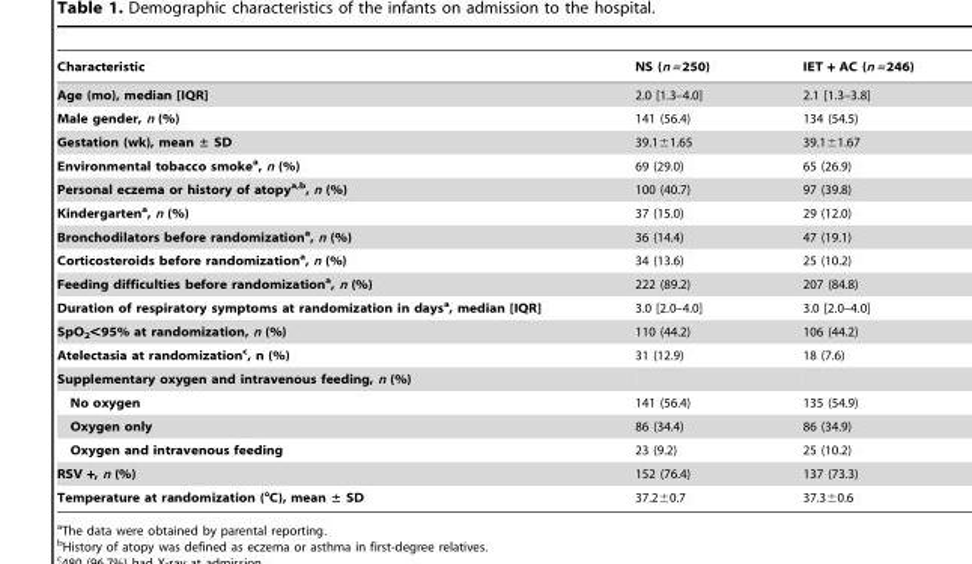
<table><thead><tr><td>Characteristic</td><td>NS (n = 250)</td><td>IET + AC (n = 246)</td></tr></thead><tbody><tr><td>Age (mo), median [IQR]</td><td>2.0 [1.3–4.0]</td><td>2.1 [1.3–3.8]</td></tr><tr><td>Male gender, n (%)</td><td>141 (56.4)</td><td>134 (54.5)</td></tr><tr><td>Gestation (wk), mean ± SD</td><td>39.1±1.65</td><td>39.1±1.67</td></tr><tr><td>Environmental tobacco smokea, n (%)</td><td>69 (29.0)</td><td>65 (26.9)</td></tr><tr><td>Personal eczema or history of atopya,b, n (%)</td><td>100 (40.7)</td><td>97 (39.8)</td></tr><tr><td>Kindergartena, n (%)</td><td>37 (15.0)</td><td>29 (12.0)</td></tr><tr><td>Bronchodilators before randomizationa, n (%)</td><td>36 (14.4)</td><td>47 (19.1)</td></tr><tr><td>Corticosteroids before randomizationa, n (%)</td><td>34 (13.6)</td><td>25 (10.2)</td></tr><tr><td>Feeding difficulties before randomizationa, n (%)</td><td>222 (89.2)</td><td>207 (84.8)</td></tr><tr><td>Duration of respiratory symptoms at randomization in daysa, median [IQR]</td><td>3.0 [2.0–4.0]</td><td>3.0 [2.0–4.0]</td></tr><tr><td>SpO<sub>2</sub>&lt;95% at randomization, n (%)</td><td>110 (44.2)</td><td>106 (44.2)</td></tr><tr><td>Atelectasia at randomizationc, n (%)</td><td>31 (12.9)</td><td>18 (7.6)</td></tr><tr><td colspan="3">Supplementary oxygen and intravenous feeding, n (%)</td></tr><tr><td>No oxygen</td><td>141 (56.4)</td><td>135 (54.9)</td></tr><tr><td>Oxygen only</td><td>86 (34.4)</td><td>86 (34.9)</td></tr><tr><td>Oxygen and intravenous feeding</td><td>23 (9.2)</td><td>25 (10.2)</td></tr><tr><td>RSV +, n (%)</td><td>152 (76.4)</td><td>137 (73.3)</td></tr><tr><td>Temperature at randomization (°C), mean ± SD</td><td>37.2±0.7</td><td>37.3±0.6</td></tr></tbody></table>